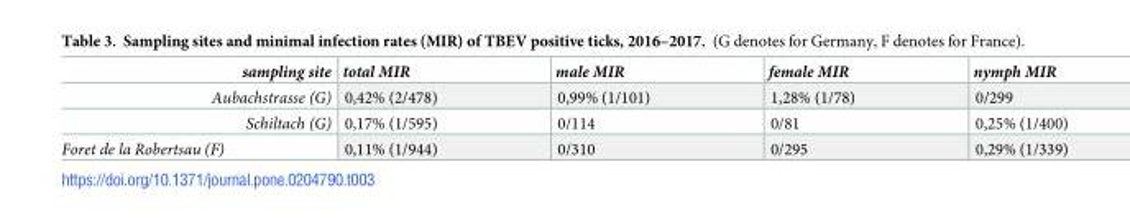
<table><thead><tr><td>sampling site</td><td>total MIR</td><td>male MIR</td><td>female MIR</td><td>nymph MIR</td></tr></thead><tbody><tr><td>Aubachstrasse (G)</td><td>0,42% (2/478)</td><td>0,99% (1/101)</td><td>1,28% (1/78)</td><td>0/299</td></tr><tr><td>Schiltach (G)</td><td>0,17% (1/595)</td><td>0/114</td><td>0/81</td><td>0,25% (1/400)</td></tr><tr><td>Foret de la Robertsau (F)</td><td>0,11% (1/944)</td><td>0/310</td><td>0/295</td><td>0,29% (1/339)</td></tr></tbody></table>